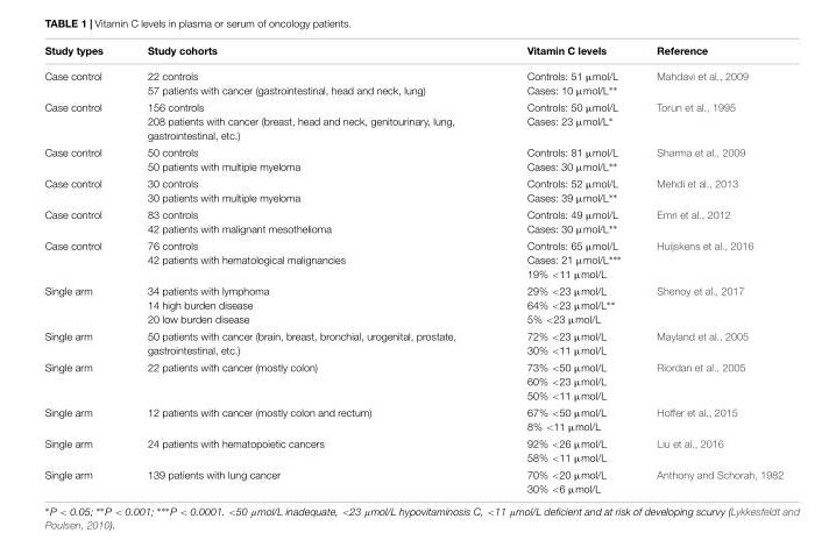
<table><thead><tr><td>Study types</td><td>Study cohorts</td><td>Vitamin C levels</td><td>Reference</td></tr></thead><tbody><tr><td>Case control</td><td>22 controls 57 patients with cancer (gastrointestinal, head and neck, lung)</td><td>Controls: 51 µmol/L Cases: 10 µmol/L∗∗</td><td>Mahdavi et al., 2009</td></tr><tr><td>Case control</td><td>156 controls 208 patients with cancer (breast, head and neck, genitourinary, lung, gastrointestinal, etc.)</td><td>Controls: 50 µmol/L Cases: 23 µmol/L∗</td><td>Torun et al., 1995</td></tr><tr><td>Case control</td><td>50 controls 50 patients with multiple myeloma</td><td>Controls: 81 µmol/L Cases: 30 µmol/L∗∗</td><td>Sharma et al., 2009</td></tr><tr><td>Case control</td><td>30 controls 30 patients with multiple myeloma</td><td>Controls: 52 µmol/L Cases: 39 µmol/L∗∗</td><td>Mehdi et al., 2013</td></tr><tr><td>Case control</td><td>83 controls 42 patients with malignant mesothelioma</td><td>Controls: 49 µmol/L Cases: 30 µmol/L∗∗</td><td>Emri et al., 2012</td></tr><tr><td>Case control</td><td>76 controls 42 patients with hematological malignancies</td><td>Controls: 65 µmol/L Cases: 21 µmol/L∗∗∗ 19% &lt;11 µmol/L</td><td>Huijskens et al., 2016</td></tr><tr><td>Single arm</td><td>34 patients with lymphoma 14 high burden disease 20 low burden disease</td><td>29% &lt;23 µmol/L 64% &lt;23 µmol/L∗∗ 5% &lt;23 µmol/L</td><td>Shenoy et al., 2017</td></tr><tr><td>Single arm</td><td>50 patients with cancer (brain, breast, bronchial, urogenital, prostate, gastrointestinal, etc.)</td><td>72% &lt;23 µmol/L 30% &lt;11 µmol/L</td><td>Mayland et al., 2005</td></tr><tr><td>Single arm</td><td>22 patients with cancer (mostly colon)</td><td>73% &lt;50 µmol/L 60% &lt;23 µmol/L 50% &lt;11 µmol/L</td><td>Riordan et al., 2005</td></tr><tr><td>Single arm</td><td>12 patients with cancer (mostly colon and rectum)</td><td>67% &lt;50 µmol/L 8% &lt;11 µmol/L</td><td>Hoffer et al., 2015</td></tr><tr><td>Single arm</td><td>24 patients with hematopoietic cancers</td><td>92% &lt;26 µmol/L 58% &lt;11 µmol/L</td><td>Liu et al., 2016</td></tr><tr><td>Single arm</td><td>139 patients with lung cancer</td><td>70% &lt;20 µmol/L 30% &lt;6 µmol/L</td><td>Anthony and Schorah, 1982</td></tr></tbody></table>